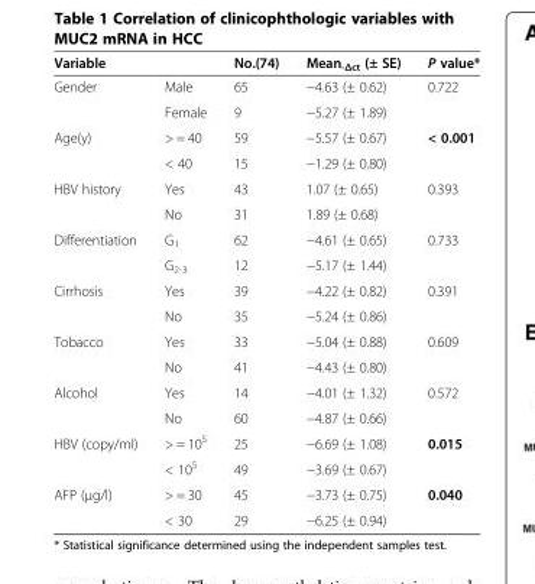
<table><thead><tr><td>Variable</td><td></td><td>No.(74)</td><td>Mean<sub>-Δct</sub> (± SE)</td><td>P value*</td></tr></thead><tbody><tr><td rowspan="2">Gender</td><td>Male</td><td>65</td><td>−4.63 (± 0.62)</td><td>0.722</td></tr><tr><td>Female</td><td>9</td><td>−5.27 (± 1.89)</td><td></td></tr><tr><td rowspan="2">Age(y)</td><td>&gt; = 40</td><td>59</td><td>−5.57 (± 0.67)</td><td>&lt; 0.001</td></tr><tr><td>&lt; 40</td><td>15</td><td>−1.29 (± 0.80)</td><td></td></tr><tr><td rowspan="2">HBV history</td><td>Yes</td><td>43</td><td>1.07 (± 0.65)</td><td>0.393</td></tr><tr><td>No</td><td>31</td><td>1.89 (± 0.68)</td><td></td></tr><tr><td rowspan="2">Differentiation</td><td>G<sub>1</sub></td><td>62</td><td>−4.61 (± 0.65)</td><td>0.733</td></tr><tr><td>G<sub>2-3</sub></td><td>12</td><td>−5.17 (± 1.44)</td><td></td></tr><tr><td rowspan="2">Cirrhosis</td><td>Yes</td><td>39</td><td>−4.22 (± 0.82)</td><td>0.391</td></tr><tr><td>No</td><td>35</td><td>−5.24 (± 0.86)</td><td></td></tr><tr><td rowspan="2">Tobacco</td><td>Yes</td><td>33</td><td>−5.04 (± 0.88)</td><td>0.609</td></tr><tr><td>No</td><td>41</td><td>−4.43 (± 0.80)</td><td></td></tr><tr><td rowspan="2">Alcohol</td><td>Yes</td><td>14</td><td>−4.01 (± 1.32)</td><td>0.572</td></tr><tr><td>No</td><td>60</td><td>−4.87 (± 0.66)</td><td></td></tr><tr><td rowspan="2">HBV (copy/ml)</td><td>&gt; = 10<sup>5</sup></td><td>25</td><td>−6.69 (± 1.08)</td><td>0.015</td></tr><tr><td>&lt; 10<sup>5</sup></td><td>49</td><td>−3.69 (± 0.67)</td><td></td></tr><tr><td rowspan="2">AFP (μg/l)</td><td>&gt; = 30</td><td>45</td><td>−3.73 (± 0.75)</td><td>0.040</td></tr><tr><td>&lt; 30</td><td>29</td><td>−6.25 (± 0.94)</td><td></td></tr></tbody></table>